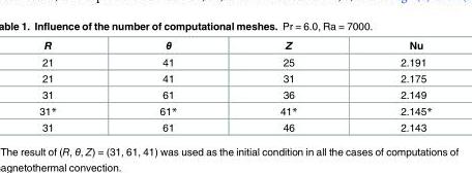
<table><thead><tr><td>R</td><td>θ</td><td>Z</td><td>Nu</td></tr></thead><tbody><tr><td>21</td><td>41</td><td>25</td><td>2.191</td></tr><tr><td>21</td><td>41</td><td>31</td><td>2.175</td></tr><tr><td>31</td><td>61</td><td>36</td><td>2.149</td></tr><tr><td>31*</td><td>61*</td><td>41*</td><td>2.145*</td></tr><tr><td>31</td><td>61</td><td>46</td><td>2.143</td></tr></tbody></table>